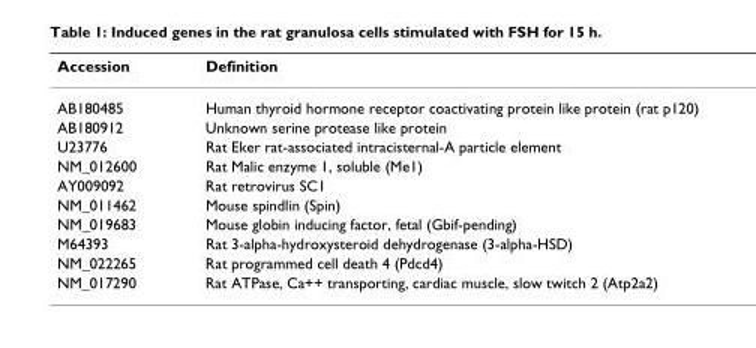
<table><thead><tr><td>Accession</td><td>Definition</td></tr></thead><tbody><tr><td>AB180485</td><td>Human thyroid hormone receptor coactivating protein like protein (rat p120)</td></tr><tr><td>AB180912</td><td>Unknown serine protease like protein</td></tr><tr><td>U23776</td><td>Rat Eker rat-associated intracisternal-A particle element</td></tr><tr><td>NM_012600</td><td>Rat Malic enzyme 1, soluble (Me1)</td></tr><tr><td>AY009092</td><td>Rat retrovirus SC1</td></tr><tr><td>NM_011462</td><td>Mouse spindlin (Spin)</td></tr><tr><td>NM_019683</td><td>Mouse globin inducing factor, fetal (Gbif-pending)</td></tr><tr><td>M64393</td><td>Rat 3-alpha-hydroxysteroid dehydrogenase (3-alpha-HSD)</td></tr><tr><td>NM_022265</td><td>Rat programmed cell death 4 (Pdcd4)</td></tr><tr><td>NM_017290</td><td>Rat ATPase, Ca++ transporting, cardiac muscle, slow twitch 2 (Atp2a2)</td></tr></tbody></table>